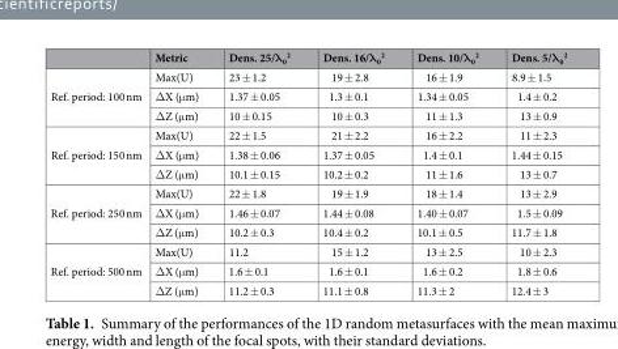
<table><thead><tr><td></td><td>Metric</td><td>Dens. 25/λ<sub>0</sub> <sup>2</sup></td><td>Dens. 16/λ<sub>0</sub> <sup>2</sup></td><td>Dens. 10/λ<sub>0</sub> <sup>2</sup></td><td>Dens. 5/λ<sub>0</sub> <sup>2</sup></td></tr></thead><tbody><tr><td rowspan="3">Ref. period: 100 nm</td><td>Max(U)</td><td>23 ± 1.2</td><td>19 ± 2.8</td><td>16 ± 1.9</td><td>8.9 ± 1.5</td></tr><tr><td>ΔX (μm)</td><td>1.37 ± 0.05</td><td>1.3 ± 0.1</td><td>1.34 ± 0.05</td><td>1.4 ± 0.2</td></tr><tr><td>ΔZ (μm)</td><td>10 ± 0.15</td><td>10 ± 0.3</td><td>11 ± 1.3</td><td>13 ± 0.9</td></tr><tr><td rowspan="3">Ref. period: 150 nm</td><td>Max(U)</td><td>22 ± 1.5</td><td>21 ± 2.2</td><td>16 ± 2.2</td><td>11 ± 2.3</td></tr><tr><td>ΔX (μm)</td><td>1.38 ± 0.06</td><td>1.37 ± 0.05</td><td>1.4 ± 0.1</td><td>1.44 ± 0.15</td></tr><tr><td>ΔZ (μm)</td><td>10.1 ± 0.15</td><td>10.2 ± 0.2</td><td>11 ± 1.6</td><td>13 ± 0.7</td></tr><tr><td rowspan="3">Ref. period: 250 nm</td><td>Max(U)</td><td>22 ± 1.8</td><td>19 ± 1.9</td><td>18 ± 1.4</td><td>13 ± 2.9</td></tr><tr><td>ΔX (μm)</td><td>1.46 ± 0.07</td><td>1.44 ± 0.08</td><td>1.40 ± 0.07</td><td>1.5 ± 0.09</td></tr><tr><td>ΔZ (μm)</td><td>10.2 ± 0.3</td><td>10.4 ± 0.2</td><td>10.1 ± 0.5</td><td>11.7 ± 1.8</td></tr><tr><td rowspan="3">Ref. period: 500 nm</td><td>Max(U)</td><td>11.2</td><td>15 ± 1.2</td><td>13 ± 2.5</td><td>10 ± 2.3</td></tr><tr><td>ΔX (μm)</td><td>1.6 ± 0.1</td><td>1.6 ± 0.1</td><td>1.6 ± 0.2</td><td>1.8 ± 0.6</td></tr><tr><td>ΔZ (μm)</td><td>11.2 ± 0.3</td><td>11.1 ± 0.8</td><td>11.3 ± 2</td><td>12.4 ± 3</td></tr></tbody></table>